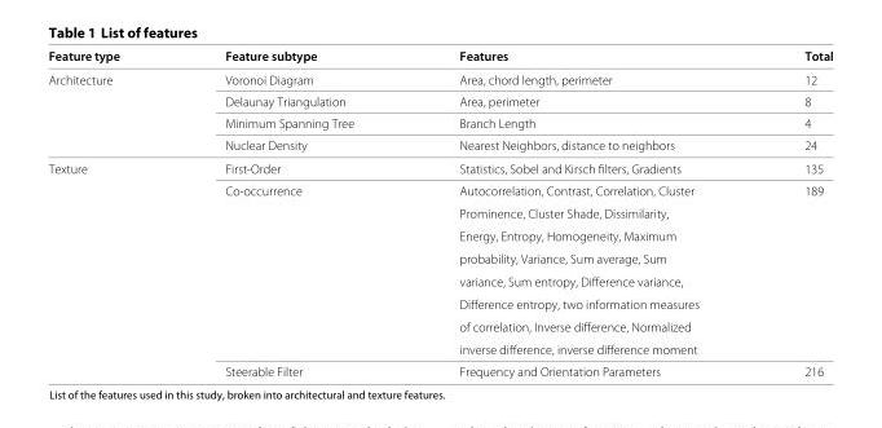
<table><thead><tr><td>Feature type</td><td>Feature subtype</td><td>Features</td><td>Total</td></tr></thead><tbody><tr><td rowspan="4">Architecture</td><td>Voronoi Diagram</td><td>Area, chord length, perimeter</td><td>12</td></tr><tr><td>Delaunay Triangulation</td><td>Area, perimeter</td><td>8</td></tr><tr><td>Minimum Spanning Tree</td><td>Branch Length</td><td>4</td></tr><tr><td>Nuclear Density</td><td>Nearest Neighbors, distance to neighbors</td><td>24</td></tr><tr><td rowspan="10">Texture</td><td>First-Order</td><td>Statistics, Sobel and Kirsch filters, Gradients</td><td>135</td></tr><tr><td>Co-occurrence</td><td>Autocorrelation, Contrast, Correlation, Cluster</td><td>189</td></tr><tr><td></td><td>Prominence, Cluster Shade, Dissimilarity,</td><td></td></tr><tr><td></td><td>Energy, Entropy, Homogeneity, Maximum</td><td></td></tr><tr><td></td><td>probability, Variance, Sum average, Sum</td><td></td></tr><tr><td></td><td>variance, Sum entropy, Difference variance,</td><td></td></tr><tr><td></td><td>Difference entropy, two information measures</td><td></td></tr><tr><td></td><td>of correlation, Inverse difference, Normalized</td><td></td></tr><tr><td></td><td>inverse difference, inverse difference moment</td><td></td></tr><tr><td>Steerable Filter</td><td>Frequency and Orientation Parameters</td><td>216</td></tr></tbody></table>